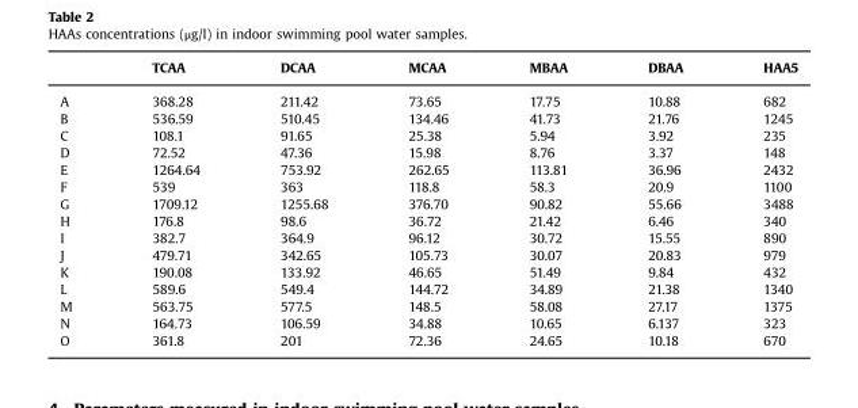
<table><thead><tr><td></td><td>TCAA</td><td>DCAA</td><td>MCAA</td><td>MBAA</td><td>DBAA</td><td>HAA5</td></tr></thead><tbody><tr><td>A</td><td>368.28</td><td>211.42</td><td>73.65</td><td>17.75</td><td>10.88</td><td>682</td></tr><tr><td>B</td><td>536.59</td><td>510.45</td><td>134.46</td><td>41.73</td><td>21.76</td><td>1245</td></tr><tr><td>C</td><td>108.1</td><td>91.65</td><td>25.38</td><td>5.94</td><td>3.92</td><td>235</td></tr><tr><td>D</td><td>72.52</td><td>47.36</td><td>15.98</td><td>8.76</td><td>3.37</td><td>148</td></tr><tr><td>E</td><td>1264.64</td><td>753.92</td><td>262.65</td><td>113.81</td><td>36.96</td><td>2432</td></tr><tr><td>F</td><td>539</td><td>363</td><td>118.8</td><td>58.3</td><td>20.9</td><td>1100</td></tr><tr><td>G</td><td>1709.12</td><td>1255.68</td><td>376.70</td><td>90.82</td><td>55.66</td><td>3488</td></tr><tr><td>H</td><td>176.8</td><td>98.6</td><td>36.72</td><td>21.42</td><td>6.46</td><td>340</td></tr><tr><td>I</td><td>382.7</td><td>364.9</td><td>96.12</td><td>30.72</td><td>15.55</td><td>890</td></tr><tr><td>J</td><td>479.71</td><td>342.65</td><td>105.73</td><td>30.07</td><td>20.83</td><td>979</td></tr><tr><td>K</td><td>190.08</td><td>133.92</td><td>46.65</td><td>51.49</td><td>9.84</td><td>432</td></tr><tr><td>L</td><td>589.6</td><td>549.4</td><td>144.72</td><td>34.89</td><td>21.38</td><td>1340</td></tr><tr><td>M</td><td>563.75</td><td>577.5</td><td>148.5</td><td>58.08</td><td>27.17</td><td>1375</td></tr><tr><td>N</td><td>164.73</td><td>106.59</td><td>34.88</td><td>10.65</td><td>6.137</td><td>323</td></tr><tr><td>O</td><td>361.8</td><td>201</td><td>72.36</td><td>24.65</td><td>10.18</td><td>670</td></tr></tbody></table>